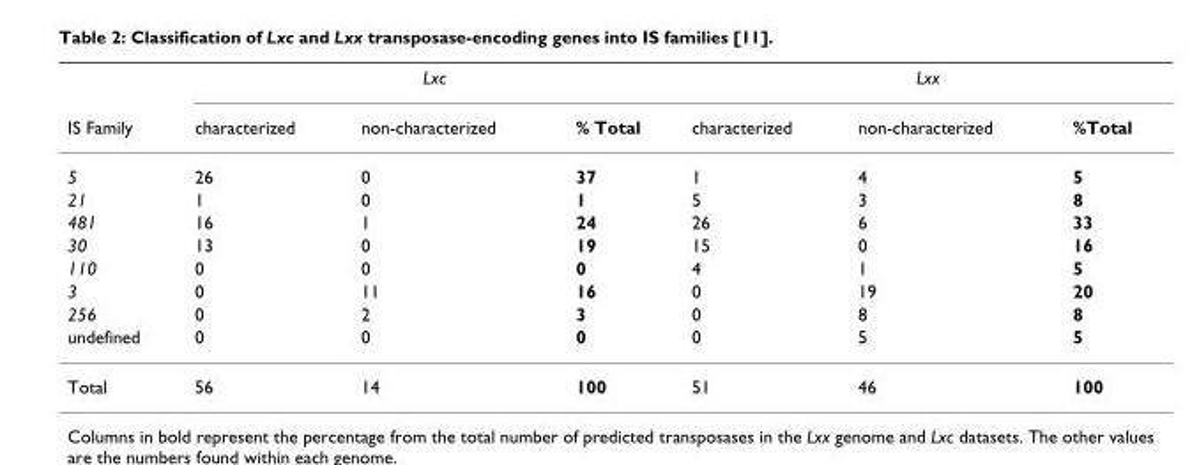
<table><thead><tr><td rowspan="2">IS Family</td><td colspan="3">Lxc</td><td colspan="3">Lxx</td></tr><tr><td>characterized</td><td>non-characterized</td><td>% Total</td><td>characterized</td><td>non-characterized</td><td>%Total</td></tr></thead><tbody><tr><td>5</td><td>26</td><td>0</td><td>37</td><td>1</td><td>4</td><td>5</td></tr><tr><td>21</td><td>1</td><td>0</td><td>1</td><td>5</td><td>3</td><td>8</td></tr><tr><td>481</td><td>16</td><td>1</td><td>24</td><td>26</td><td>6</td><td>33</td></tr><tr><td>30</td><td>13</td><td>0</td><td>19</td><td>15</td><td>0</td><td>16</td></tr><tr><td>110</td><td>0</td><td>0</td><td>0</td><td>4</td><td>1</td><td>5</td></tr><tr><td>3</td><td>0</td><td>11</td><td>16</td><td>0</td><td>19</td><td>20</td></tr><tr><td>256</td><td>0</td><td>2</td><td>3</td><td>0</td><td>8</td><td>8</td></tr><tr><td>undefined</td><td>0</td><td>0</td><td>0</td><td>0</td><td>5</td><td>5</td></tr><tr><td>Total</td><td>56</td><td>14</td><td>100</td><td>51</td><td>46</td><td>100</td></tr></tbody></table>